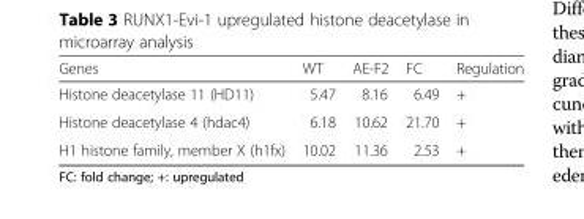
<table><thead><tr><td>Genes</td><td>WT</td><td>AE-F2</td><td>FC</td><td>Regulation</td></tr></thead><tbody><tr><td>Histone deacetylase 11 (HD11)</td><td>5.47</td><td>8.16</td><td>6.49</td><td>+</td></tr><tr><td>Histone deacetylase 4 (hdac4)</td><td>6.18</td><td>10.62</td><td>21.70</td><td>+</td></tr><tr><td>H1 histone family, member X (h1fx)</td><td>10.02</td><td>11.36</td><td>2.53</td><td>+</td></tr></tbody></table>